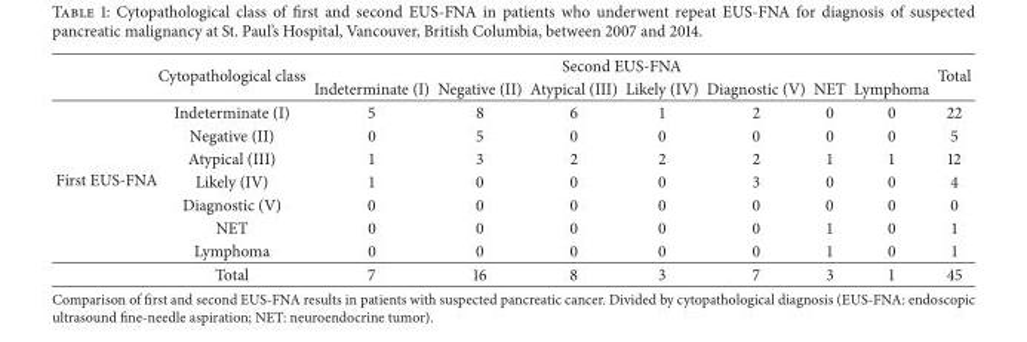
<table><thead><tr><td rowspan="2"></td><td rowspan="2">Cytopathological class</td><td colspan="7">Second EUS-FNA</td><td rowspan="2">Total</td></tr><tr><td>Indeterminate (I)</td><td>Negative (II)</td><td>Atypical (III)</td><td>Likely (IV)</td><td>Diagnostic (V)</td><td>NET</td><td>Lymphoma</td></tr></thead><tbody><tr><td rowspan="8">First EUS-FNA</td><td>Indeterminate (I)</td><td>5</td><td>8</td><td>6</td><td>1</td><td>2</td><td>0</td><td>0</td><td>22</td></tr><tr><td>Negative (II)</td><td>0</td><td>5</td><td>0</td><td>0</td><td>0</td><td>0</td><td>0</td><td>5</td></tr><tr><td>Atypical (III)</td><td>1</td><td>3</td><td>2</td><td>2</td><td>2</td><td>1</td><td>1</td><td>12</td></tr><tr><td>Likely (IV)</td><td>1</td><td>0</td><td>0</td><td>0</td><td>3</td><td>0</td><td>0</td><td>4</td></tr><tr><td>Diagnostic (V)</td><td>0</td><td>0</td><td>0</td><td>0</td><td>0</td><td>0</td><td>0</td><td>0</td></tr><tr><td>NET</td><td>0</td><td>0</td><td>0</td><td>0</td><td>0</td><td>1</td><td>0</td><td>1</td></tr><tr><td>Lymphoma</td><td>0</td><td>0</td><td>0</td><td>0</td><td>0</td><td>1</td><td>0</td><td>1</td></tr><tr><td>Total</td><td>7</td><td>16</td><td>8</td><td>3</td><td>7</td><td>3</td><td>1</td><td>45</td></tr></tbody></table>